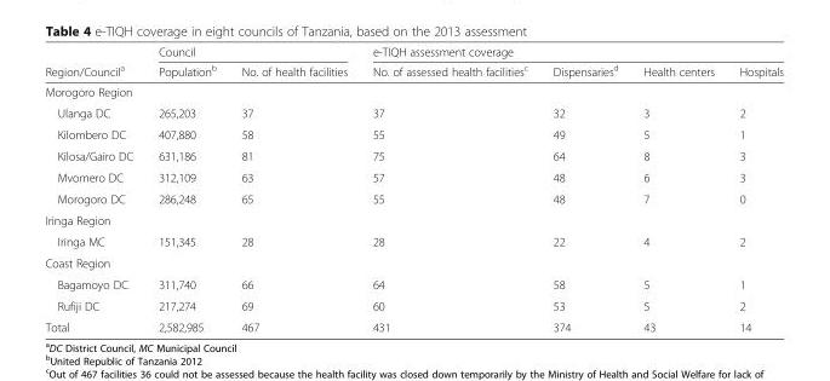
<table><thead><tr><td rowspan="2">Region/Council<sup>a</sup></td><td colspan="2">Council</td><td colspan="4">e-TIQH assessment coverage</td></tr><tr><td>Population<sup>b</sup></td><td>No. of health facilities</td><td>No. of assessed health facilities<sup>c</sup></td><td>Dispensaries<sup>d</sup></td><td>Health centers</td><td>Hospitals</td></tr></thead><tbody><tr><td colspan="7">Morogoro Region</td></tr><tr><td>Ulanga DC</td><td>265,203</td><td>37</td><td>37</td><td>32</td><td>3</td><td>2</td></tr><tr><td>Kilombero DC</td><td>407,880</td><td>58</td><td>55</td><td>49</td><td>5</td><td>1</td></tr><tr><td>Kilosa/Gairo DC</td><td>631,186</td><td>81</td><td>75</td><td>64</td><td>8</td><td>3</td></tr><tr><td>Mvomero DC</td><td>312,109</td><td>63</td><td>57</td><td>48</td><td>6</td><td>3</td></tr><tr><td>Morogoro DC</td><td>286,248</td><td>65</td><td>55</td><td>48</td><td>7</td><td>0</td></tr><tr><td colspan="7">Iringa Region</td></tr><tr><td>Iringa MC</td><td>151,345</td><td>28</td><td>28</td><td>22</td><td>4</td><td>2</td></tr><tr><td colspan="7">Coast Region</td></tr><tr><td>Bagamoyo DC</td><td>311,740</td><td>66</td><td>64</td><td>58</td><td>5</td><td>1</td></tr><tr><td>Rufiji DC</td><td>217,274</td><td>69</td><td>60</td><td>53</td><td>5</td><td>2</td></tr><tr><td>Total</td><td>2,582,985</td><td>467</td><td>431</td><td>374</td><td>43</td><td>14</td></tr></tbody></table>